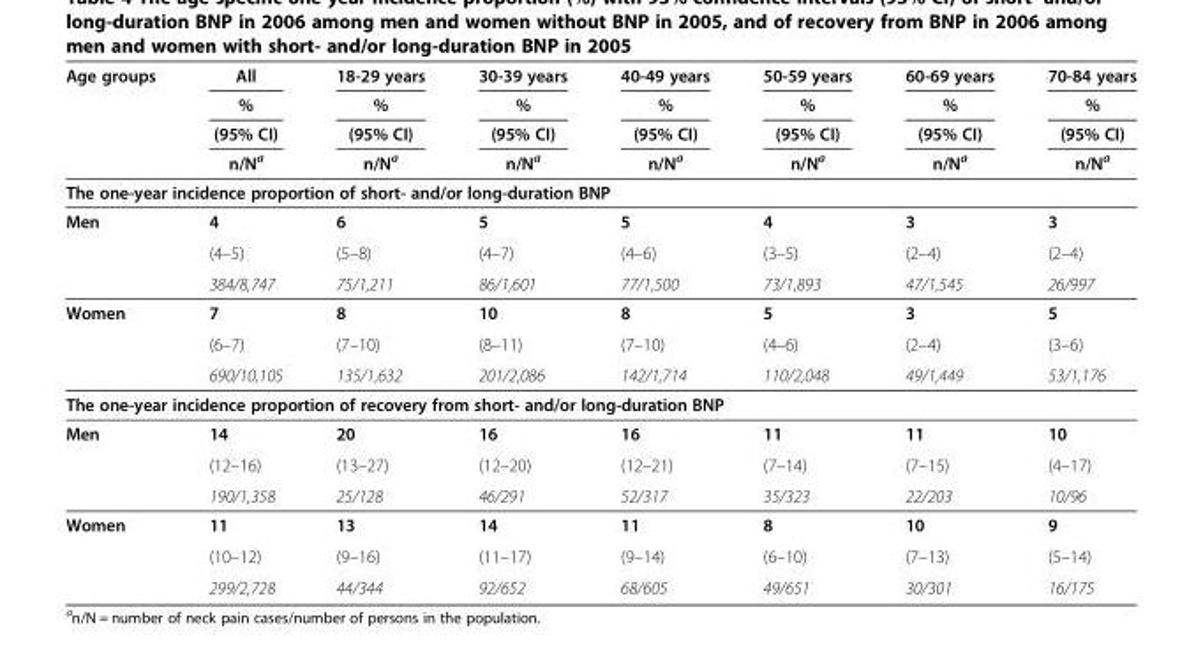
<table><thead><tr><td rowspan="4">Age groups</td><td rowspan="4">All % (95% CI) n/N<sup>a</sup></td><td rowspan="4">18-29 years % (95% CI) n/N<sup>a</sup></td><td rowspan="4">30-39 years % (95% CI) n/N<sup>a</sup></td><td rowspan="4">40-49 years % (95% CI) n/N<sup>a</sup></td><td rowspan="4">50-59 years % (95% CI) n/N<sup>a</sup></td><td rowspan="4">60-69 years % (95% CI) n/N<sup>a</sup></td><td rowspan="4">70-84 years % (95% CI) n/N<sup>a</sup></td></tr><tr></tr><tr></tr><tr></tr></thead><tbody><tr><td colspan="8">The one-year incidence proportion of short- and/or long-duration BNP</td></tr><tr><td rowspan="3">Men</td><td>4</td><td>6</td><td>5</td><td>5</td><td>4</td><td>3</td><td>3</td></tr><tr><td>(4–5)</td><td>(5–8)</td><td>(4–7)</td><td>(4–6)</td><td>(3–5)</td><td>(2–4)</td><td>(2–4)</td></tr><tr><td>384/8,747</td><td>75/1,211</td><td>86/1,601</td><td>77/1,500</td><td>73/1,893</td><td>47/1,545</td><td>26/997</td></tr><tr><td rowspan="3">Women</td><td>7</td><td>8</td><td>10</td><td>8</td><td>5</td><td>3</td><td>5</td></tr><tr><td>(6–7)</td><td>(7–10)</td><td>(8–11)</td><td>(7–10)</td><td>(4–6)</td><td>(2–4)</td><td>(3–6)</td></tr><tr><td>690/10,105</td><td>135/1,632</td><td>201/2,086</td><td>142/1,714</td><td>110/2,048</td><td>49/1,449</td><td>53/1,176</td></tr><tr><td colspan="8">The one-year incidence proportion of recovery from short- and/or long-duration BNP</td></tr><tr><td rowspan="3">Men</td><td>14</td><td>20</td><td>16</td><td>16</td><td>11</td><td>11</td><td>10</td></tr><tr><td>(12–16)</td><td>(13–27)</td><td>(12–20)</td><td>(12–21)</td><td>(7–14)</td><td>(7–15)</td><td>(4–17)</td></tr><tr><td>190/1,358</td><td>25/128</td><td>46/291</td><td>52/317</td><td>35/323</td><td>22/203</td><td>10/96</td></tr><tr><td rowspan="3">Women</td><td>11</td><td>13</td><td>14</td><td>11</td><td>8</td><td>10</td><td>9</td></tr><tr><td>(10–12)</td><td>(9–16)</td><td>(11–17)</td><td>(9–14)</td><td>(6–10)</td><td>(7–13)</td><td>(5–14)</td></tr><tr><td>299/2,728</td><td>44/344</td><td>92/652</td><td>68/605</td><td>49/651</td><td>30/301</td><td>16/175</td></tr></tbody></table>